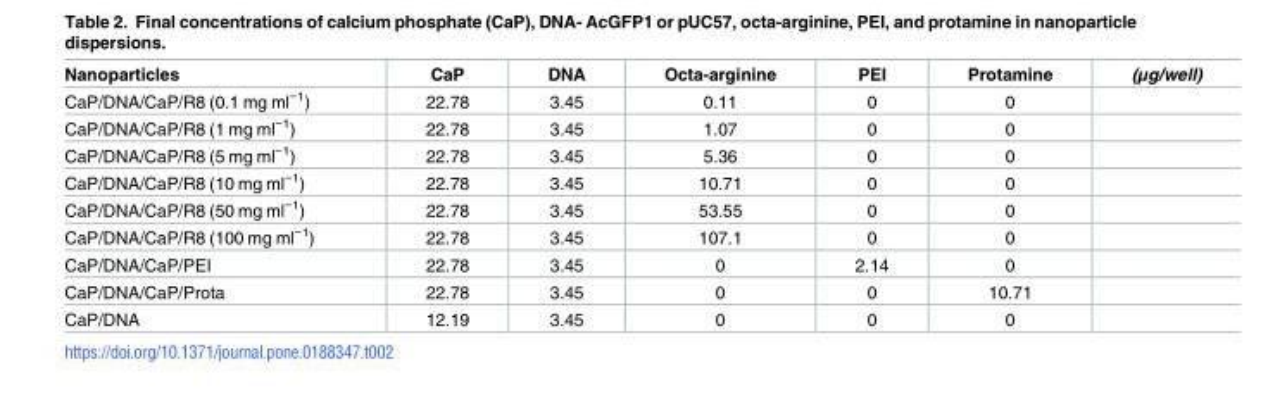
<table><thead><tr><td>Nanoparticles</td><td>CaP</td><td>DNA</td><td>Octa-arginine</td><td>PEI</td><td>Protamine</td><td>(μg/well)</td></tr></thead><tbody><tr><td>CaP/DNA/CaP/R8 (0.1 mg ml<sup>−1</sup>)</td><td>22.78</td><td>3.45</td><td>0.11</td><td>0</td><td>0</td><td></td></tr><tr><td>CaP/DNA/CaP/R8 (1 mg ml<sup>−1</sup>)</td><td>22.78</td><td>3.45</td><td>1.07</td><td>0</td><td>0</td><td></td></tr><tr><td>CaP/DNA/CaP/R8 (5 mg ml<sup>−1</sup>)</td><td>22.78</td><td>3.45</td><td>5.36</td><td>0</td><td>0</td><td></td></tr><tr><td>CaP/DNA/CaP/R8 (10 mg ml<sup>−1</sup>)</td><td>22.78</td><td>3.45</td><td>10.71</td><td>0</td><td>0</td><td></td></tr><tr><td>CaP/DNA/CaP/R8 (50 mg ml<sup>−1</sup>)</td><td>22.78</td><td>3.45</td><td>53.55</td><td>0</td><td>0</td><td></td></tr><tr><td>CaP/DNA/CaP/R8 (100 mg ml<sup>−1</sup>)</td><td>22.78</td><td>3.45</td><td>107.1</td><td>0</td><td>0</td><td></td></tr><tr><td>CaP/DNA/CaP/PEI</td><td>22.78</td><td>3.45</td><td>0</td><td>2.14</td><td>0</td><td></td></tr><tr><td>CaP/DNA/CaP/Prota</td><td>22.78</td><td>3.45</td><td>0</td><td>0</td><td>10.71</td><td></td></tr><tr><td>CaP/DNA</td><td>12.19</td><td>3.45</td><td>0</td><td>0</td><td>0</td><td></td></tr></tbody></table>